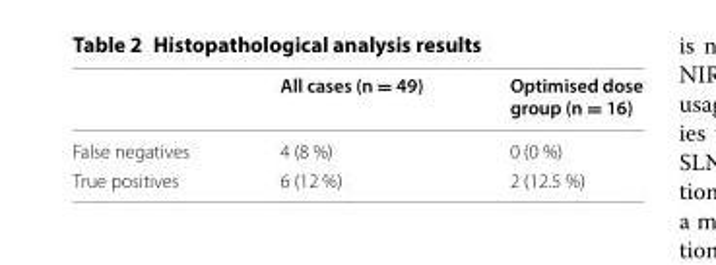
<table><thead><tr><td></td><td>All cases (n = 49)</td><td>Optimised dose group (n = 16)</td></tr></thead><tbody><tr><td>False negatives</td><td>4 (8 %)</td><td>0 (0 %)</td></tr><tr><td>True positives</td><td>6 (12 %)</td><td>2 (12.5 %)</td></tr></tbody></table>